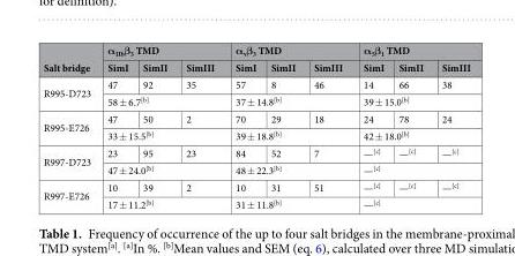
<table><thead><tr><td rowspan="2">Salt bridge</td><td colspan="3">α<sub>IIb</sub>β<sub>3</sub> TMD</td><td colspan="3">α<sub>v</sub>β<sub>3</sub> TMD</td><td colspan="3">α<sub>5</sub>β<sub>1</sub> TMD</td></tr><tr><td>SimI</td><td>SimII</td><td>SimIII</td><td>SimI</td><td>SimII</td><td>SimIII</td><td>SimI</td><td>SimII</td><td>SimIII</td></tr></thead><tbody><tr><td rowspan="2">R995-D723</td><td>47</td><td>92</td><td>35</td><td>57</td><td>8</td><td>46</td><td>14</td><td>66</td><td>38</td></tr><tr><td colspan="3">58 ± 6.7<sup>[b]</sup></td><td colspan="3">37 ± 14.8<sup>[b]</sup></td><td colspan="3">39 ± 15.0<sup>[b]</sup></td></tr><tr><td rowspan="2">R995-E726</td><td>47</td><td>50</td><td>2</td><td>70</td><td>29</td><td>18</td><td>24</td><td>78</td><td>24</td></tr><tr><td colspan="3">33 ± 15.5<sup>[b]</sup></td><td colspan="3">39 ± 18.8<sup>[b]</sup></td><td colspan="3">42 ± 18.0<sup>[b]</sup></td></tr><tr><td rowspan="2">R997-D723</td><td>23</td><td>95</td><td>23</td><td>84</td><td>52</td><td>7</td><td>—<sup>[c]</sup></td><td>—<sup>[c]</sup></td><td>—<sup>[c]</sup></td></tr><tr><td colspan="3">47 ± 24.0<sup>[b]</sup></td><td colspan="3">48 ± 22.3<sup>[b]</sup></td><td colspan="3">—<sup>[c]</sup></td></tr><tr><td rowspan="2">R997-E726</td><td>10</td><td>39</td><td>2</td><td>10</td><td>31</td><td>51</td><td>—<sup>[c]</sup></td><td>—<sup>[c]</sup></td><td>—<sup>[c]</sup></td></tr><tr><td colspan="3">17 ± 11.2<sup>[b]</sup></td><td colspan="3">31 ± 11.8<sup>[b]</sup></td><td colspan="3">—<sup>[c]</sup></td></tr></tbody></table>